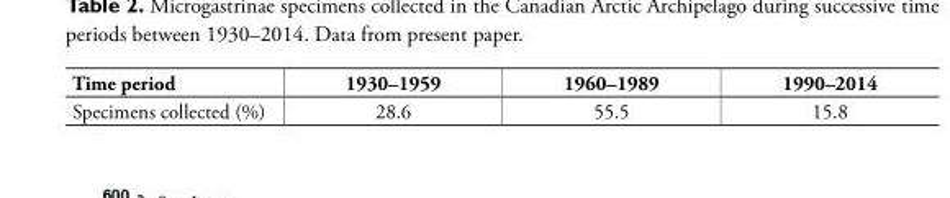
<table><thead><tr><td>Time period</td><td>1930–1959</td><td>1960–1989</td><td>1990–2014</td></tr></thead><tbody><tr><td>Specimens collected (%)</td><td>28.6</td><td>55.5</td><td>15.8</td></tr></tbody></table>